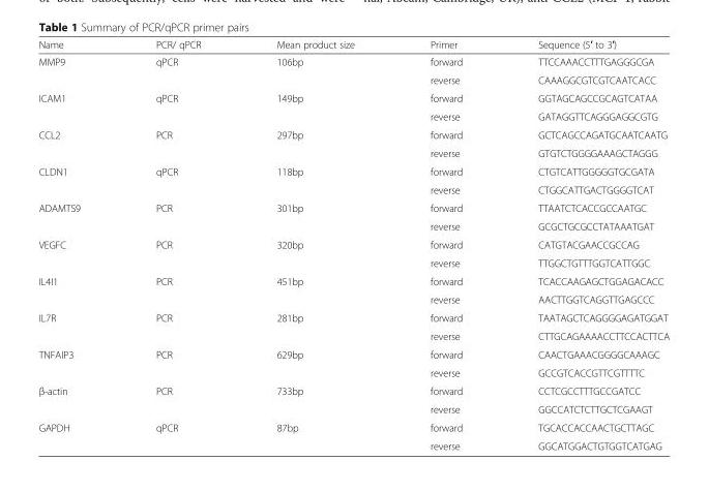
<table><thead><tr><td>Name</td><td>PCR/ qPCR</td><td>Mean product size</td><td>Primer</td><td>Sequence (5′ to 3′)</td></tr></thead><tbody><tr><td rowspan="2">MMP9</td><td>qPCR</td><td>106bp</td><td>forward</td><td>TTCCAAACCTTTGAGGGCGA</td></tr><tr><td></td><td></td><td>reverse</td><td>CAAAGGCGTCGTCAATCACC</td></tr><tr><td rowspan="2">ICAM1</td><td>qPCR</td><td>149bp</td><td>forward</td><td>GGTAGCAGCCGCAGTCATAA</td></tr><tr><td></td><td></td><td>reverse</td><td>GATAGGTTCAGGGAGGCGTG</td></tr><tr><td rowspan="2">CCL2</td><td>PCR</td><td>297bp</td><td>forward</td><td>GCTCAGCCAGATGCAATCAATG</td></tr><tr><td></td><td></td><td>reverse</td><td>GTGTCTGGGGAAAGCTAGGG</td></tr><tr><td rowspan="2">CLDN1</td><td>qPCR</td><td>118bp</td><td>forward</td><td>CTGTCATTGGGGGTGCGATA</td></tr><tr><td></td><td></td><td>reverse</td><td>CTGGCATTGACTGGGGTCAT</td></tr><tr><td rowspan="2">ADAMTS9</td><td>PCR</td><td>301bp</td><td>forward</td><td>TTAATCTCACCGCCAATGC</td></tr><tr><td></td><td></td><td>reverse</td><td>GCGCTGCGCCTATAAATGAT</td></tr><tr><td rowspan="2">VEGFC</td><td>PCR</td><td>320bp</td><td>forward</td><td>CATGTACGAACCGCCAG</td></tr><tr><td></td><td></td><td>reverse</td><td>TTGGCTGTTTGGTCATTGGC</td></tr><tr><td rowspan="2">IL4I1</td><td>PCR</td><td>451bp</td><td>forward</td><td>TCACCAAGAGCTGGAGACACC</td></tr><tr><td></td><td></td><td>reverse</td><td>AACTTGGTCAGGTTGAGCCC</td></tr><tr><td rowspan="2">IL7R</td><td>PCR</td><td>281bp</td><td>forward</td><td>TAATAGCTCAGGGGAGATGGAT</td></tr><tr><td></td><td></td><td>reverse</td><td>CTTGCAGAAAACCTTCCACTTCA</td></tr><tr><td rowspan="2">TNFAIP3</td><td>PCR</td><td>629bp</td><td>forward</td><td>CAACTGAAACGGGGCAAAGC</td></tr><tr><td></td><td></td><td>reverse</td><td>GCCGTCACCGTTCGTTTTC</td></tr><tr><td rowspan="2">β-actin</td><td>PCR</td><td>733bp</td><td>forward</td><td>CCTCGCCTTTGCCGATCC</td></tr><tr><td></td><td></td><td>reverse</td><td>GGCCATCTCTTGCTCGAAGT</td></tr><tr><td rowspan="2">GAPDH</td><td>qPCR</td><td>87bp</td><td>forward</td><td>TGCACCACCAACTGCTTAGC</td></tr><tr><td></td><td></td><td>reverse</td><td>GGCATGGACTGTGGTCATGAG</td></tr></tbody></table>